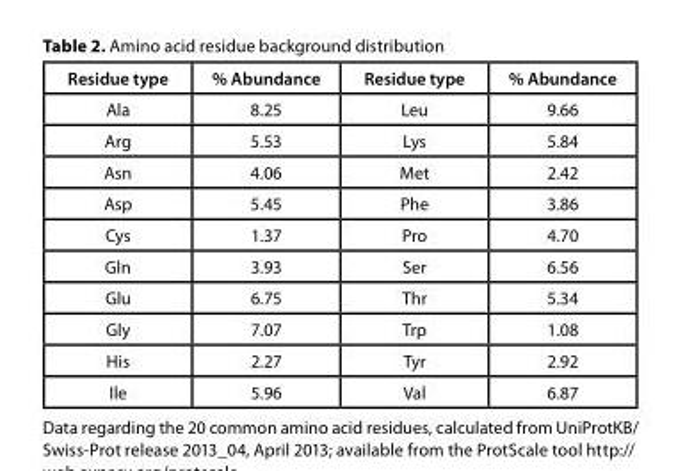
<table><thead><tr><td>Residue type</td><td>% Abundance</td><td>Residue type</td><td>% Abundance</td></tr></thead><tbody><tr><td>Ala</td><td>8.25</td><td>Leu</td><td>9.66</td></tr><tr><td>Arg</td><td>5.53</td><td>Lys</td><td>5.84</td></tr><tr><td>Asn</td><td>4.06</td><td>Met</td><td>2.42</td></tr><tr><td>Asp</td><td>5.45</td><td>Phe</td><td>3.86</td></tr><tr><td>cys</td><td>1.37</td><td>Pro</td><td>4.70</td></tr><tr><td>Gln</td><td>3.93</td><td>Ser</td><td>6.56</td></tr><tr><td>Glu</td><td>6.75</td><td>thr</td><td>5.34</td></tr><tr><td>Gly</td><td>7.07</td><td>trp</td><td>1.08</td></tr><tr><td>His</td><td>2.27</td><td>tyr</td><td>2.92</td></tr><tr><td>Ile</td><td>5.96</td><td>Val</td><td>6.87</td></tr></tbody></table>